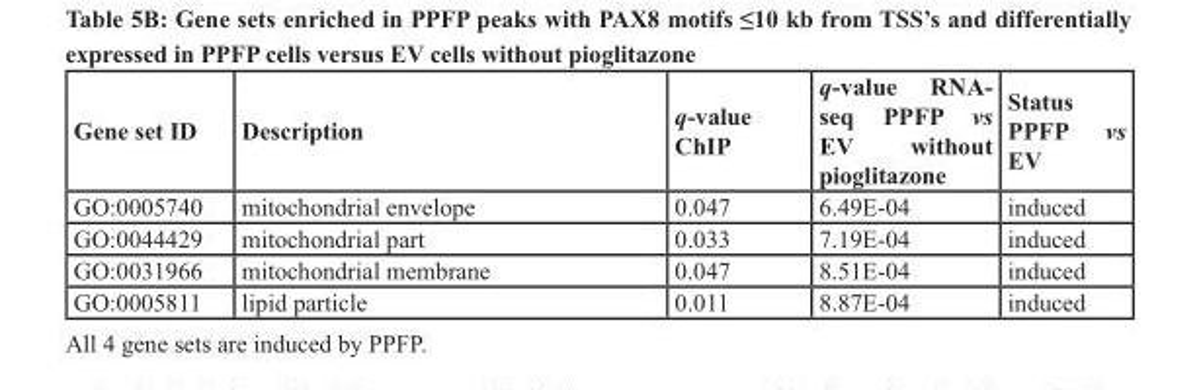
<table><thead><tr><td>Gene set ID</td><td>Description</td><td>q-value ChIP</td><td>q-value RNA- seq PPFP vs EV without pioglitazone</td><td>Status PPFP vs EV</td></tr></thead><tbody><tr><td>GO:0005740</td><td>mitochondrial envelope</td><td>0.047</td><td>6.49E-04</td><td>induced</td></tr><tr><td>GO:0044429</td><td>mitochondrial part</td><td>0.033</td><td>7.19E-04</td><td>induced</td></tr><tr><td>GO:0031966</td><td>mitochondrial membrane</td><td>0.047</td><td>8.51E-04</td><td>induced</td></tr><tr><td>GO:0005811</td><td>lipid particle</td><td>0.011</td><td>8.87E-04</td><td>induced</td></tr></tbody></table>